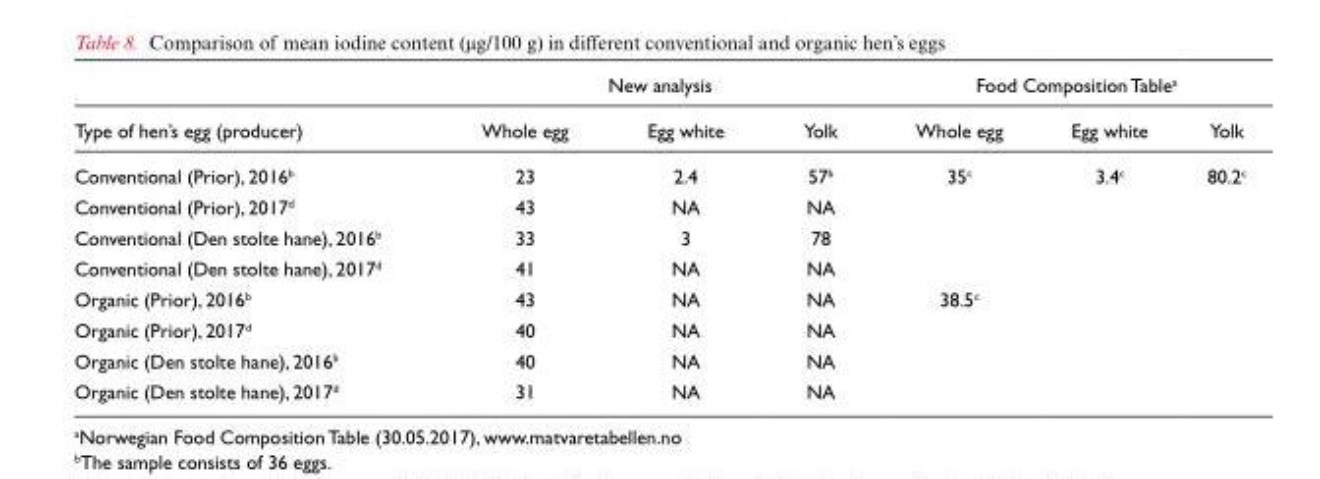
<table><thead><tr><td rowspan="2">Type of hen’s egg (producer)</td><td colspan="3">New analysis</td><td colspan="3">Food Composition Table<sup>a</sup></td></tr><tr><td>Whole egg</td><td>Egg white</td><td>Yolk</td><td>Whole egg</td><td>Egg white</td><td>Yolk</td></tr></thead><tbody><tr><td>Conventional (Prior), 2016<sup>b</sup></td><td>23</td><td>2.4</td><td>57<sup>b</sup></td><td>35<sup>c</sup></td><td>3.4<sup>c</sup></td><td>80.2<sup>c</sup></td></tr><tr><td>Conventional (Prior), 2017<sup>d</sup></td><td>43</td><td>NA</td><td>NA</td><td></td><td></td><td></td></tr><tr><td>Conventional (Den stolte hane), 2016<sup>b</sup></td><td>33</td><td>3</td><td>78</td><td></td><td></td><td></td></tr><tr><td>Conventional (Den stolte hane), 2017<sup>d</sup></td><td>41</td><td>NA</td><td>NA</td><td></td><td></td><td></td></tr><tr><td>Organic (Prior), 2016<sup>b</sup></td><td>43</td><td>NA</td><td>NA</td><td>38.5<sup>c</sup></td><td></td><td></td></tr><tr><td>Organic (Prior), 2017<sup>d</sup></td><td>40</td><td>NA</td><td>NA</td><td></td><td></td><td></td></tr><tr><td>Organic (Den stolte hane), 2016<sup>b</sup></td><td>40</td><td>NA</td><td>NA</td><td></td><td></td><td></td></tr><tr><td>Organic (Den stolte hane), 2017<sup>d</sup></td><td>31</td><td>NA</td><td>NA</td><td></td><td></td><td></td></tr></tbody></table>